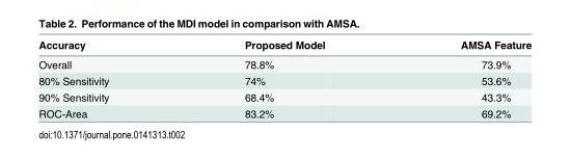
<table><thead><tr><td>Accuracy</td><td>Proposed Model</td><td>AMSA Feature</td></tr></thead><tbody><tr><td>Overall</td><td>78.8%</td><td>73.9%</td></tr><tr><td>80% Sensitivity</td><td>74%</td><td>53.6%</td></tr><tr><td>90% Sensitivity</td><td>68.4%</td><td>43.3%</td></tr><tr><td>ROC-Area</td><td>83.2%</td><td>69.2%</td></tr></tbody></table>